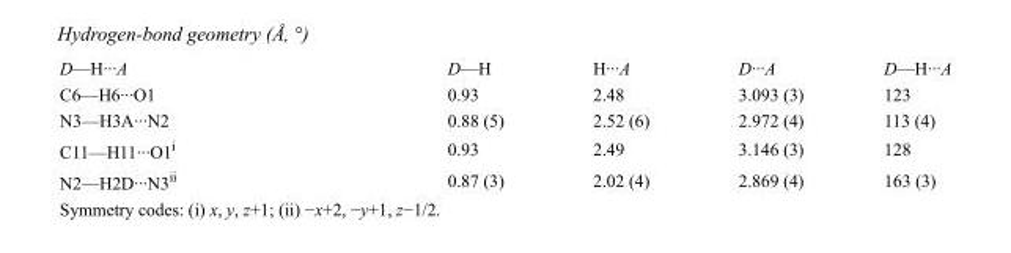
<table><tbody><tr><td>D—H···A</td><td>D—H</td><td>H···A</td><td>D···A</td><td>D—H···A</td></tr><tr><td>C6—H6···O1</td><td>0.93</td><td>2.48</td><td>3.093 (3)</td><td>123</td></tr><tr><td>N3—H3A···N2</td><td>0.88 (5)</td><td>2.52 (6)</td><td>2.972 (4)</td><td>113 (4)</td></tr><tr><td>C11—H11···O1<sup>i</sup></td><td>0.93</td><td>2.49</td><td>3.146 (3)</td><td>128</td></tr><tr><td>N2—H2D···N3<sup>ii</sup></td><td>0.87 (3)</td><td>2.02 (4)</td><td>2.869 (4)</td><td>163 (3)</td></tr></tbody></table>